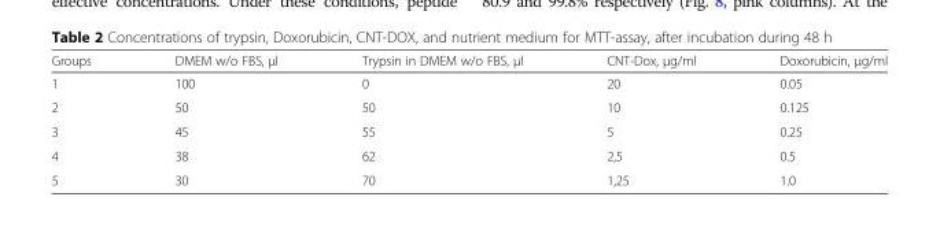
<table><thead><tr><td>Groups</td><td>DMEM w/o FBS, μl</td><td>Trypsin in DMEM w/o FBS, μl</td><td>CNT-Dox, μg/ml</td><td>Doxorubicin, μg/ml</td></tr></thead><tbody><tr><td>1</td><td>100</td><td>0</td><td>20</td><td>0.05</td></tr><tr><td>2</td><td>50</td><td>50</td><td>10</td><td>0.125</td></tr><tr><td>3</td><td>45</td><td>55</td><td>5</td><td>0.25</td></tr><tr><td>4</td><td>38</td><td>62</td><td>2,5</td><td>0.5</td></tr><tr><td>5</td><td>30</td><td>70</td><td>1,25</td><td>1.0</td></tr></tbody></table>